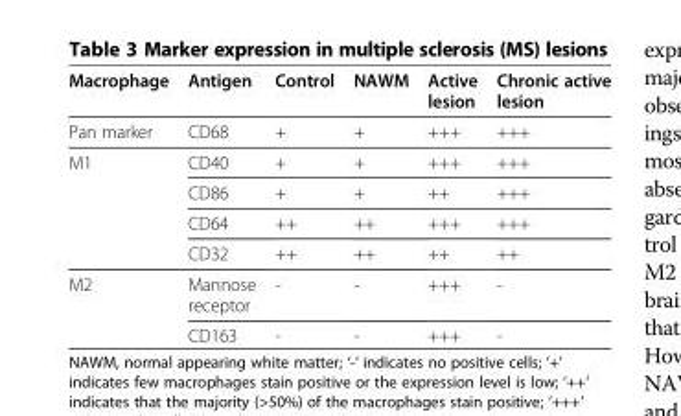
<table><thead><tr><td>Macrophage</td><td>Antigen</td><td>Control</td><td>NAWM</td><td>Active lesion</td><td>Chronic active lesion</td></tr></thead><tbody><tr><td>Pan marker</td><td>CD68</td><td>+</td><td>+</td><td>+++</td><td>+++</td></tr><tr><td rowspan="4">M1</td><td>CD40</td><td>+</td><td>+</td><td>+++</td><td>+++</td></tr><tr><td>CD86</td><td>+</td><td>+</td><td>++</td><td>+++</td></tr><tr><td>CD64</td><td>++</td><td>++</td><td>+++</td><td>+++</td></tr><tr><td>CD32</td><td>++</td><td>++</td><td>++</td><td>++</td></tr><tr><td rowspan="2">M2</td><td>Mannose receptor</td><td>-</td><td>-</td><td>+++</td><td>-</td></tr><tr><td>CD163</td><td>-</td><td>-</td><td>+++</td><td>-</td></tr></tbody></table>